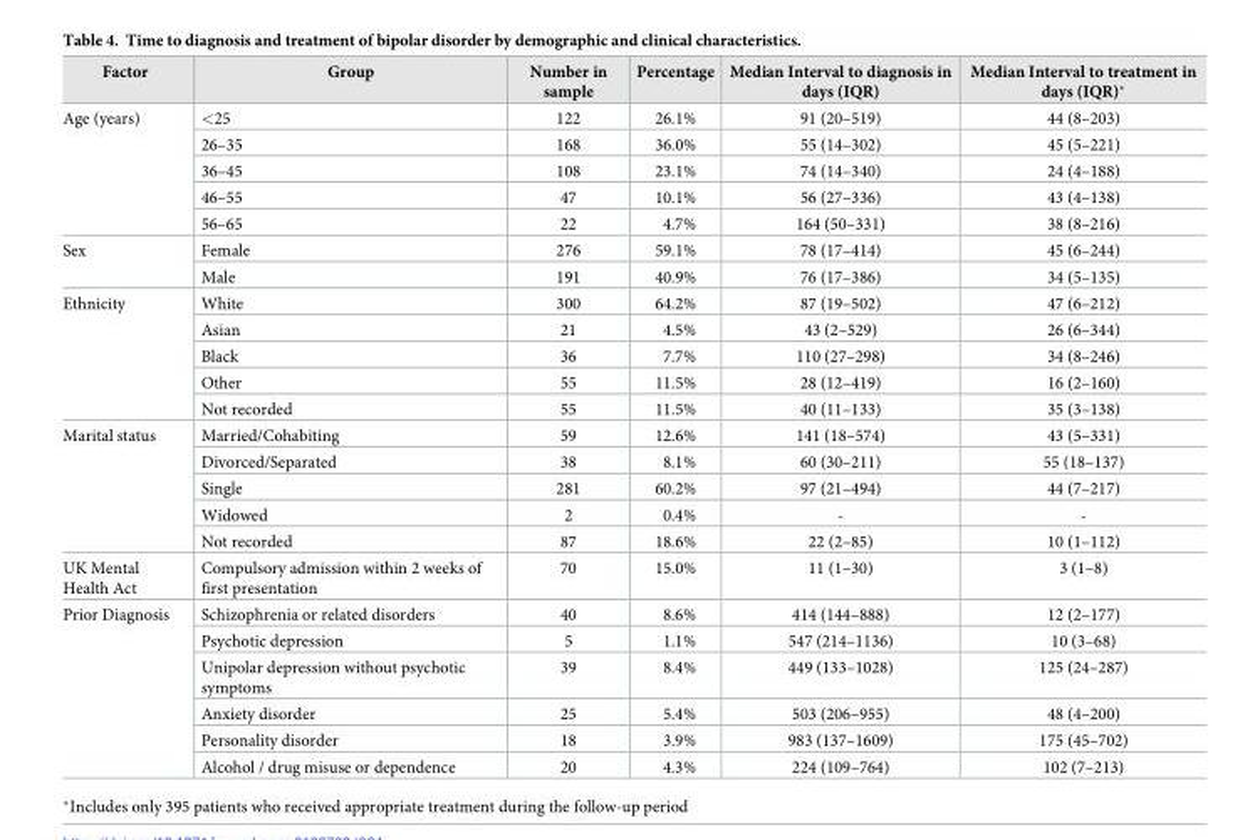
<table><thead><tr><td>Factor</td><td>Group</td><td>Number in sample</td><td>Percentage</td><td>Median Interval to diagnosis in days (IQR)</td><td>Median Interval to treatment in days (IQR)*</td></tr></thead><tbody><tr><td rowspan="5">Age (years)</td><td>&lt;25</td><td>122</td><td>26.1%</td><td>91 (20–519)</td><td>44 (8–203)</td></tr><tr><td>26–35</td><td>168</td><td>36.0%</td><td>55 (14–302)</td><td>45 (5–221)</td></tr><tr><td>36–45</td><td>108</td><td>23.1%</td><td>74 (14–340)</td><td>24 (4–188)</td></tr><tr><td>46–55</td><td>47</td><td>10.1%</td><td>56 (27–336)</td><td>43 (4–138)</td></tr><tr><td>56–65</td><td>22</td><td>4.7%</td><td>164 (50–331)</td><td>38 (8–216)</td></tr><tr><td rowspan="2">Sex</td><td>Female</td><td>276</td><td>59.1%</td><td>78 (17–414)</td><td>45 (6–244)</td></tr><tr><td>Male</td><td>191</td><td>40.9%</td><td>76 (17–386)</td><td>34 (5–135)</td></tr><tr><td rowspan="5">Ethnicity</td><td>White</td><td>300</td><td>64.2%</td><td>87 (19–502)</td><td>47 (6–212)</td></tr><tr><td>Asian</td><td>21</td><td>4.5%</td><td>43 (2–529)</td><td>26 (6–344)</td></tr><tr><td>Black</td><td>36</td><td>7.7%</td><td>110 (27–298)</td><td>34 (8–246)</td></tr><tr><td>Other</td><td>55</td><td>11.5%</td><td>28 (12–419)</td><td>16 (2–160)</td></tr><tr><td>Not recorded</td><td>55</td><td>11.5%</td><td>40 (11–133)</td><td>35 (3–138)</td></tr><tr><td rowspan="5">Marital status</td><td>Married/Cohabiting</td><td>59</td><td>12.6%</td><td>141 (18–574)</td><td>43 (5–331)</td></tr><tr><td>Divorced/Separated</td><td>38</td><td>8.1%</td><td>60 (30–211)</td><td>55 (18–137)</td></tr><tr><td>Single</td><td>281</td><td>60.2%</td><td>97 (21–494)</td><td>44 (7–217)</td></tr><tr><td>Widowed</td><td>2</td><td>0.4%</td><td>-</td><td>-</td></tr><tr><td>Not recorded</td><td>87</td><td>18.6%</td><td>22 (2–85)</td><td>10 (1–112)</td></tr><tr><td>UK Mental Health Act</td><td>Compulsory admission within 2 weeks of first presentation</td><td>70</td><td>15.0%</td><td>11 (1–30)</td><td>3 (1–8)</td></tr><tr><td rowspan="6">Prior Diagnosis</td><td>Schizophrenia or related disorders</td><td>40</td><td>8.6%</td><td>414 (144–888)</td><td>12 (2–177)</td></tr><tr><td>Psychotic depression</td><td>5</td><td>1.1%</td><td>547 (214–1136)</td><td>10 (3–68)</td></tr><tr><td>Unipolar depression without psychotic symptoms</td><td>39</td><td>8.4%</td><td>449 (133–1028)</td><td>125 (24–287)</td></tr><tr><td>Anxiety disorder</td><td>25</td><td>5.4%</td><td>503 (206–955)</td><td>48 (4–200)</td></tr><tr><td>Personality disorder</td><td>18</td><td>3.9%</td><td>983 (137–1609)</td><td>175 (45–702)</td></tr><tr><td>Alcohol / drug misuse or dependence</td><td>20</td><td>4.3%</td><td>224 (109–764)</td><td>102 (7–213)</td></tr></tbody></table>